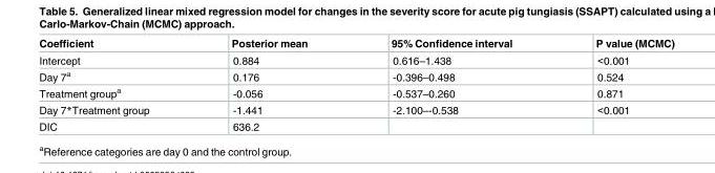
<table><thead><tr><td>Coefficient</td><td>Posterior mean</td><td>95% Confidence interval</td><td>P value (MCMC)</td></tr></thead><tbody><tr><td>Intercept</td><td>0.884</td><td>0.616–1.438</td><td>&lt;0.001</td></tr><tr><td>Day 7<sup>a</sup></td><td>0.176</td><td>-0.396–0.498</td><td>0.524</td></tr><tr><td>Treatment group<sup>a</sup></td><td>-0.056</td><td>-0.537–0.260</td><td>0.871</td></tr><tr><td>Day 7*Treatment group</td><td>-1.441</td><td>-2.100–-0.538</td><td>&lt;0.001</td></tr><tr><td>DIC</td><td>636.2</td><td></td><td></td></tr></tbody></table>